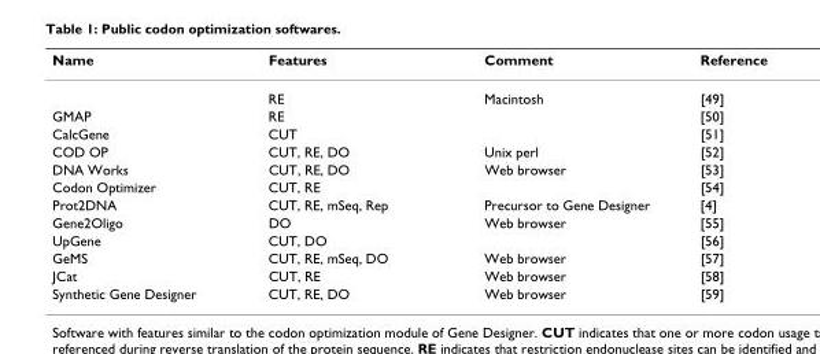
<table><thead><tr><td>Name</td><td>Features</td><td>Comment</td><td>Reference</td></tr></thead><tbody><tr><td></td><td>RE</td><td>Macintosh</td><td>[49]</td></tr><tr><td>GMAP</td><td>RE</td><td></td><td>[50]</td></tr><tr><td>CalcGene</td><td>CUT</td><td></td><td>[51]</td></tr><tr><td>COD OP</td><td>CUT, RE, DO</td><td>Unix perl</td><td>[52]</td></tr><tr><td>DNA Works</td><td>CUT, RE, DO</td><td>Web browser</td><td>[53]</td></tr><tr><td>Codon Optimizer</td><td>CUT, RE</td><td></td><td>[54]</td></tr><tr><td>Prot2DNA</td><td>CUT, RE, mSeq, Rep</td><td>Precursor to Gene Designer</td><td>[4]</td></tr><tr><td>Gene2Oligo</td><td>DO</td><td>Web browser</td><td>[55]</td></tr><tr><td>UpGene</td><td>CUT, DO</td><td></td><td>[56]</td></tr><tr><td>GeMS</td><td>CUT, RE, mSeq, DO</td><td>Web browser</td><td>[57]</td></tr><tr><td>JCat</td><td>CUT, RE</td><td>Web browser</td><td>[58]</td></tr><tr><td>Synthetic Gene Designer</td><td>CUT, RE, DO</td><td>Web browser</td><td>[59]</td></tr></tbody></table>